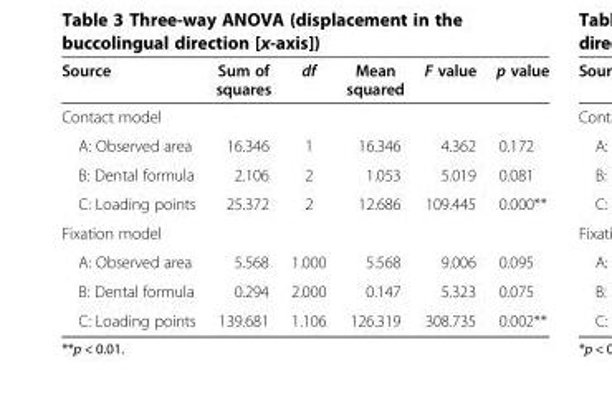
<table><thead><tr><td>Source</td><td>Sum of squares</td><td>df</td><td>Mean squared</td><td>F value</td><td>p value</td></tr></thead><tbody><tr><td colspan="6">Contact model</td></tr><tr><td>A: Observed area</td><td>16.346</td><td>1</td><td>16.346</td><td>4.362</td><td>0.172</td></tr><tr><td>B: Dental formula</td><td>2.106</td><td>2</td><td>1.053</td><td>5.019</td><td>0.081</td></tr><tr><td>C: Loading points</td><td>25.372</td><td>2</td><td>12.686</td><td>109.445</td><td>0.000**</td></tr><tr><td colspan="6">Fixation model</td></tr><tr><td>A: Observed area</td><td>5.568</td><td>1.000</td><td>5.568</td><td>9.006</td><td>0.095</td></tr><tr><td>B: Dental formula</td><td>0.294</td><td>2.000</td><td>0.147</td><td>5.323</td><td>0.075</td></tr><tr><td>C: Loading points</td><td>139.681</td><td>1.106</td><td>126.319</td><td>308.735</td><td>0.002**</td></tr></tbody></table>